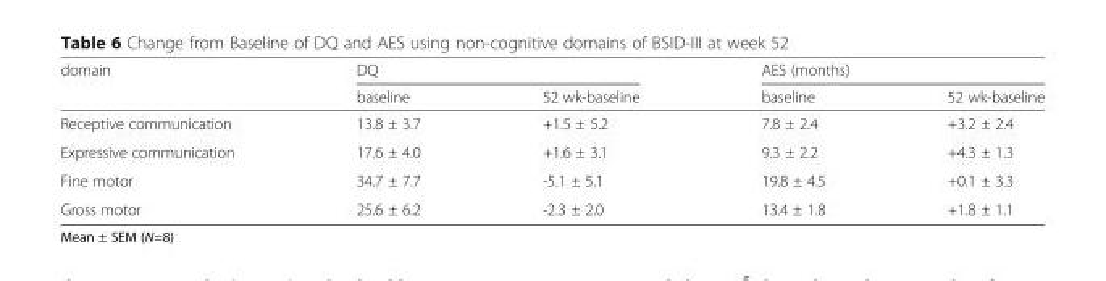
<table><thead><tr><td rowspan="2">domain</td><td colspan="2">DQ</td><td colspan="2">AES (months)</td></tr><tr><td>baseline</td><td>52 wk-baseline</td><td>baseline</td><td>52 wk-baseline</td></tr></thead><tbody><tr><td>Receptive communication</td><td>13.8 ± 3.7</td><td>+1.5 ± 5.2</td><td>7.8 ± 2.4</td><td>+3.2 ± 2.4</td></tr><tr><td>Expressive communication</td><td>17.6 ± 4.0</td><td>+1.6 ± 3.1</td><td>9.3 ± 2.2</td><td>+4.3 ± 1.3</td></tr><tr><td>Fine motor</td><td>34.7 ± 7.7</td><td>-5.1 ± 5.1</td><td>19.8 ± 4.5</td><td>+0.1 ± 3.3</td></tr><tr><td>Gross motor</td><td>25.6 ± 6.2</td><td>-2.3 ± 2.0</td><td>13.4 ± 1.8</td><td>+1.8 ± 1.1</td></tr></tbody></table>